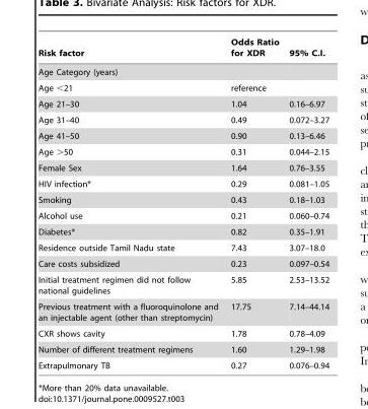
<table><thead><tr><td>Risk factor</td><td>Odds Ratio for XDR</td><td>95% C.I.</td></tr></thead><tbody><tr><td colspan="3">Age Category (years)</td></tr><tr><td>Age &lt;21</td><td>reference</td><td></td></tr><tr><td>Age 21–30</td><td>1.04</td><td>0.16–6.97</td></tr><tr><td>Age 31–40</td><td>0.49</td><td>0.072–3.27</td></tr><tr><td>Age 41–50</td><td>0.90</td><td>0.13–6.46</td></tr><tr><td>Age &gt;50</td><td>0.31</td><td>0.044–2.15</td></tr><tr><td>Female Sex</td><td>1.64</td><td>0.76–3.55</td></tr><tr><td>HIV infection*</td><td>0.29</td><td>0.081–1.05</td></tr><tr><td>Smoking</td><td>0.43</td><td>0.18–1.03</td></tr><tr><td>Alcohol use</td><td>0.21</td><td>0.060–0.74</td></tr><tr><td>Diabetes*</td><td>0.82</td><td>0.35–1.91</td></tr><tr><td>Residence outside Tamil Nadu state</td><td>7.43</td><td>3.07–18.0</td></tr><tr><td>Care costs subsidized</td><td>0.23</td><td>0.097–0.54</td></tr><tr><td>Initial treatment regimen did not follow national guidelines</td><td>5.85</td><td>2.53–13.52</td></tr><tr><td>Previous treatment with a fluoroquinolone and an injectable agent (other than streptomycin)</td><td>17.75</td><td>7.14–44.14</td></tr><tr><td>CXR shows cavity</td><td>1.78</td><td>0.78–4.09</td></tr><tr><td>Number of different treatment regimens</td><td>1.60</td><td>1.29–1.98</td></tr><tr><td>Extrapulmonary TB</td><td>0.27</td><td>0.076–0.94</td></tr></tbody></table>